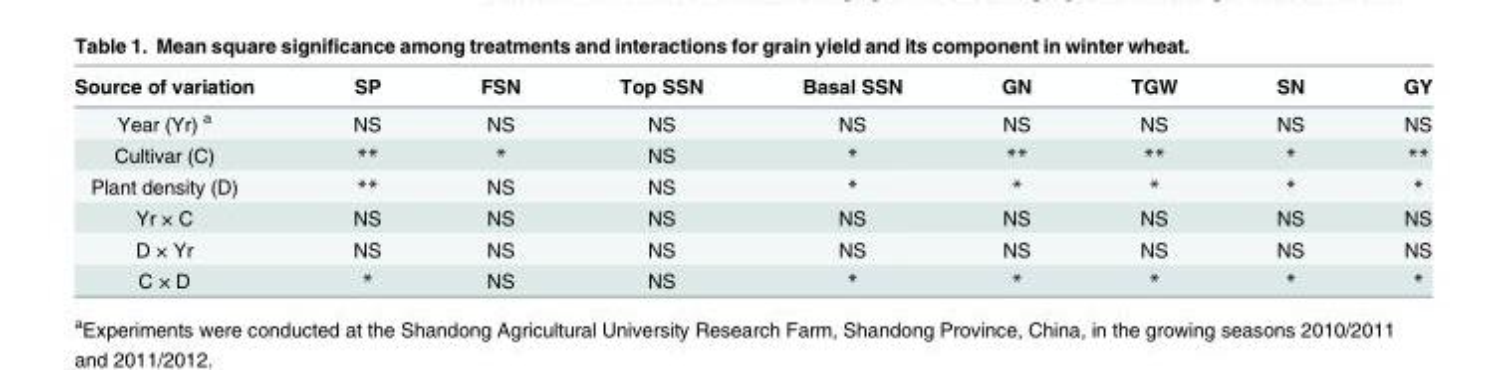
<table><thead><tr><td>Source of variation</td><td>SP</td><td>FSN</td><td>Top SSN</td><td>Basal SSN</td><td>GN</td><td>TGW</td><td>SN</td><td>GY</td></tr></thead><tbody><tr><td>Year (Yr) <sup>a</sup></td><td>NS</td><td>NS</td><td>NS</td><td>NS</td><td>NS</td><td>NS</td><td>NS</td><td>NS</td></tr><tr><td>Cultivar (C)</td><td>**</td><td>*</td><td>NS</td><td>*</td><td>**</td><td>**</td><td>*</td><td>**</td></tr><tr><td>Plant density (D)</td><td>**</td><td>NS</td><td>NS</td><td>*</td><td>*</td><td>*</td><td>*</td><td>*</td></tr><tr><td>Yr × C</td><td>NS</td><td>NS</td><td>NS</td><td>NS</td><td>NS</td><td>NS</td><td>NS</td><td>NS</td></tr><tr><td>D × Yr</td><td>NS</td><td>NS</td><td>NS</td><td>NS</td><td>NS</td><td>NS</td><td>NS</td><td>NS</td></tr><tr><td>C × D</td><td>*</td><td>NS</td><td>NS</td><td>*</td><td>*</td><td>*</td><td>*</td><td>*</td></tr></tbody></table>